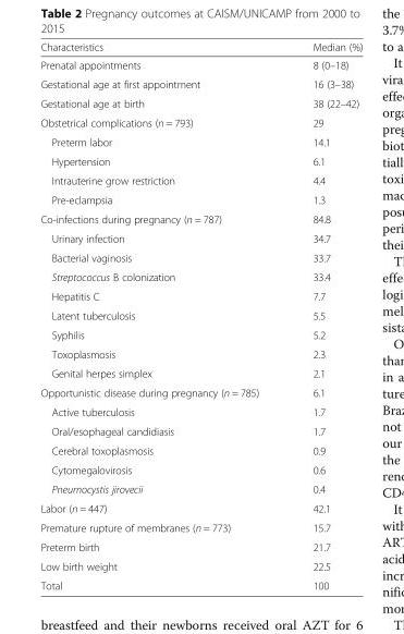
<table><thead><tr><td>Characteristics</td><td>Median (%)</td></tr></thead><tbody><tr><td>Prenatal appointments</td><td>8 (0–18)</td></tr><tr><td>Gestational age at first appointment</td><td>16 (3–38)</td></tr><tr><td>Gestational age at birth</td><td>38 (22–42)</td></tr><tr><td>Obstetrical complications (n = 793)</td><td>29</td></tr><tr><td>Preterm labor</td><td>14.1</td></tr><tr><td>Hypertension</td><td>6.1</td></tr><tr><td>Intrauterine grow restriction</td><td>4.4</td></tr><tr><td>Pre-eclampsia</td><td>1.3</td></tr><tr><td>Co-infections during pregnancy (n = 787)</td><td>84.8</td></tr><tr><td>Urinary infection</td><td>34.7</td></tr><tr><td>Bacterial vaginosis</td><td>33.7</td></tr><tr><td>Streptococcus B colonization</td><td>33.4</td></tr><tr><td>Hepatitis C</td><td>7.7</td></tr><tr><td>Latent tuberculosis</td><td>5.5</td></tr><tr><td>Syphilis</td><td>5.2</td></tr><tr><td>Toxoplasmosis</td><td>2.3</td></tr><tr><td>Genital herpes simplex</td><td>2.1</td></tr><tr><td>Opportunistic disease during pregnancy (n = 785)</td><td>6.1</td></tr><tr><td>Active tuberculosis</td><td>1.7</td></tr><tr><td>Oral/esophageal candidiasis</td><td>1.7</td></tr><tr><td>Cerebral toxoplasmosis</td><td>0.9</td></tr><tr><td>Cytomegalovirosis</td><td>0.6</td></tr><tr><td>Pneumocystis jirovecii</td><td>0.4</td></tr><tr><td>Labor (n = 447)</td><td>42.1</td></tr><tr><td>Premature rupture of membranes (n = 773)</td><td>15.7</td></tr><tr><td>Preterm birth</td><td>21.7</td></tr><tr><td>Low birth weight</td><td>22.5</td></tr><tr><td>Total</td><td>100</td></tr></tbody></table>